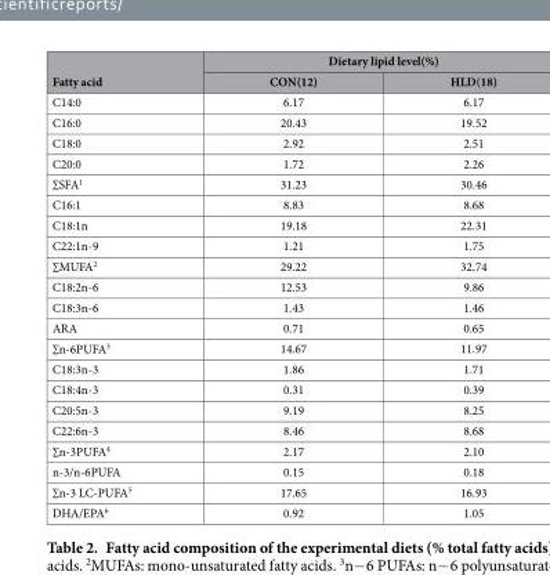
<table><thead><tr><td rowspan="2">Fatty acid</td><td colspan="2">Dietary lipid level(%)</td></tr><tr><td>CON(12)</td><td>HLD(18)</td></tr></thead><tbody><tr><td>C14:0</td><td>6.17</td><td>6.17</td></tr><tr><td>C16:0</td><td>20.43</td><td>19.52</td></tr><tr><td>C18:0</td><td>2.92</td><td>2.51</td></tr><tr><td>C20:0</td><td>1.72</td><td>2.26</td></tr><tr><td>∑SFA<sup>1</sup></td><td>31.23</td><td>30.46</td></tr><tr><td>C16:1</td><td>8.83</td><td>8.68</td></tr><tr><td>C18:1n</td><td>19.18</td><td>22.31</td></tr><tr><td>C22:1n-9</td><td>1.21</td><td>1.75</td></tr><tr><td>∑MUFA<sup>2</sup></td><td>29.22</td><td>32.74</td></tr><tr><td>C18:2n-6</td><td>12.53</td><td>9.86</td></tr><tr><td>C18:3n-6</td><td>1.43</td><td>1.46</td></tr><tr><td>ARA</td><td>0.71</td><td>0.65</td></tr><tr><td>∑n-6PUFA<sup>3</sup></td><td>14.67</td><td>11.97</td></tr><tr><td>C18:3n-3</td><td>1.86</td><td>1.71</td></tr><tr><td>C18:4n-3</td><td>0.31</td><td>0.39</td></tr><tr><td>C20:5n-3</td><td>9.19</td><td>8.25</td></tr><tr><td>C22:6n-3</td><td>8.46</td><td>8.68</td></tr><tr><td>∑n-3PUFA<sup>4</sup></td><td>2.17</td><td>2.10</td></tr><tr><td>n-3/n-6PUFA</td><td>0.15</td><td>0.18</td></tr><tr><td>∑n-3 LC-PUFA<sup>5</sup></td><td>17.65</td><td>16.93</td></tr><tr><td>DHA/EPA<sup>6</sup></td><td>0.92</td><td>1.05</td></tr></tbody></table>